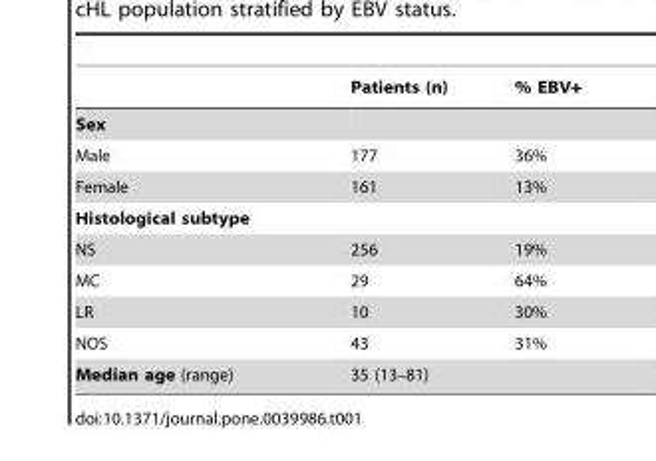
<table><thead><tr><td></td><td>Patients (n)</td><td>% EBV+</td></tr></thead><tbody><tr><td colspan="3">Sex</td></tr><tr><td>Male</td><td>177</td><td>36%</td></tr><tr><td>Female</td><td>161</td><td>13%</td></tr><tr><td colspan="3">Histological subtype</td></tr><tr><td>NS</td><td>256</td><td>19%</td></tr><tr><td>MC</td><td>29</td><td>64%</td></tr><tr><td>LR</td><td>10</td><td>30%</td></tr><tr><td>NOS</td><td>43</td><td>31%</td></tr><tr><td>Median age (range)</td><td>35 (13–81)</td><td></td></tr></tbody></table>